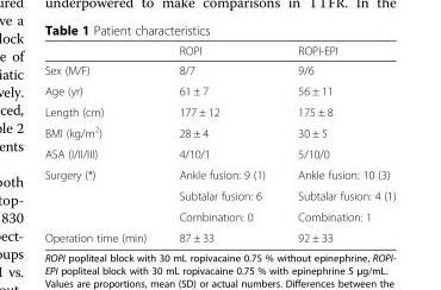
<table><thead><tr><td></td><td>ROPI</td><td>ROPI-EPI</td></tr></thead><tbody><tr><td>Sex (M/F)</td><td>8/7</td><td>9/6</td></tr><tr><td>Age (yr)</td><td>61 ± 7</td><td>56 ± 11</td></tr><tr><td>Length (cm)</td><td>177 ± 12</td><td>175 ± 8</td></tr><tr><td>BMI (kg/m<sup>2</sup>)</td><td>28 ± 4</td><td>30 ± 5</td></tr><tr><td>ASA (I/II/III)</td><td>4/10/1</td><td>5/10/0</td></tr><tr><td rowspan="3">Surgery (*)</td><td>Ankle fusion: 9 (1)</td><td>Ankle fusion: 10 (3)</td></tr><tr><td>Subtalar fusion: 6</td><td>Subtalar fusion: 4 (1)</td></tr><tr><td>Combination: 0</td><td>Combination: 1</td></tr><tr><td>Operation time (min)</td><td>87 ± 33</td><td>92 ± 33</td></tr></tbody></table>